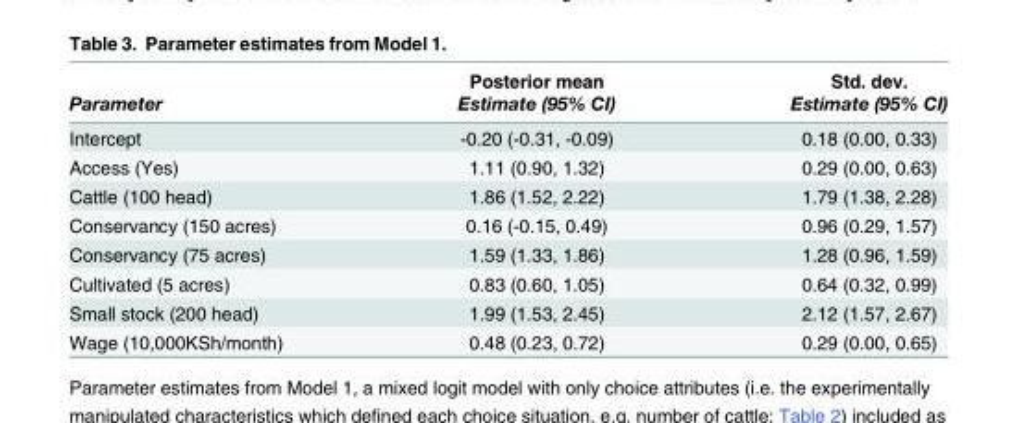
<table><thead><tr><td rowspan="2">Parameter</td><td rowspan="2">Posterior mean Estimate (95% CI)</td><td rowspan="2">Std. dev. Estimate (95% CI)</td></tr><tr></tr></thead><tbody><tr><td>Intercept</td><td>-0.20 (-0.31, -0.09)</td><td>0.18 (0.00, 0.33)</td></tr><tr><td>Access (Yes)</td><td>1.11 (0.90, 1.32)</td><td>0.29 (0.00, 0.63)</td></tr><tr><td>Cattle (100 head)</td><td>1.86 (1.52, 2.22)</td><td>1.79 (1.38, 2.28)</td></tr><tr><td>Conservancy (150 acres)</td><td>0.16 (-0.15, 0.49)</td><td>0.96 (0.29, 1.57)</td></tr><tr><td>Conservancy (75 acres)</td><td>1.59 (1.33, 1.86)</td><td>1.28 (0.96, 1.59)</td></tr><tr><td>Cultivated (5 acres)</td><td>0.83 (0.60, 1.05)</td><td>0.64 (0.32, 0.99)</td></tr><tr><td>Small stock (200 head)</td><td>1.99 (1.53, 2.45)</td><td>2.12 (1.57, 2.67)</td></tr><tr><td>Wage (10,000KSh/month)</td><td>0.48 (0.23, 0.72)</td><td>0.29 (0.00, 0.65)</td></tr></tbody></table>